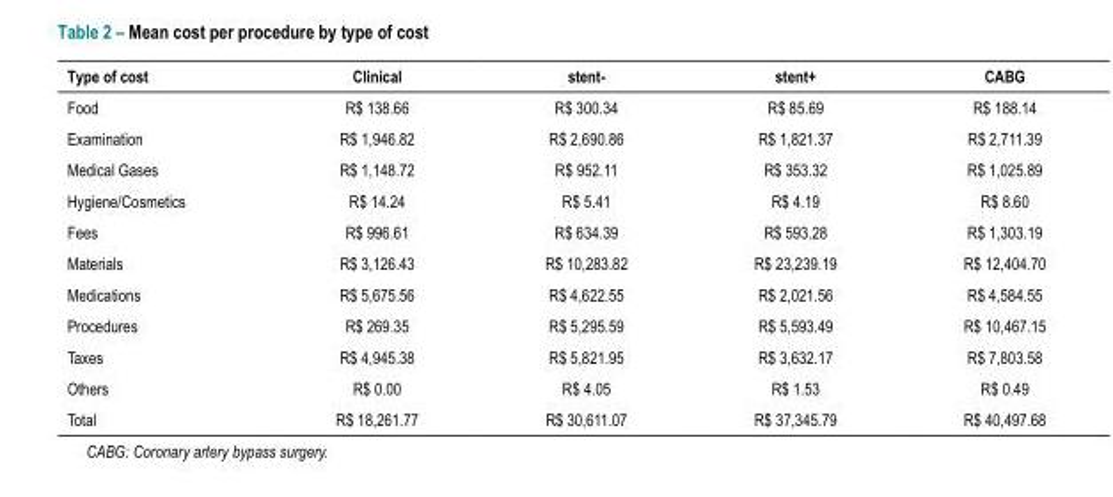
<table><thead><tr><td>Type of cost</td><td>Clinical</td><td>stent-</td><td>stent+</td><td>CABG</td></tr></thead><tbody><tr><td>Food</td><td>R$ 138.66</td><td>R$ 300.34</td><td>R$ 85.69</td><td>R$ 188.14</td></tr><tr><td>Examination</td><td>R$ 1,946.82</td><td>R$ 2,690.86</td><td>R$ 1,821.37</td><td>R$ 2,711.39</td></tr><tr><td>Medical Gases</td><td>R$ 1,148.72</td><td>R$ 952.11</td><td>R$ 353.32</td><td>R$ 1,025.89</td></tr><tr><td>Hygiene/Cosmetics</td><td>R$ 14.24</td><td>R$ 5.41</td><td>R$ 4.19</td><td>R$ 8.60</td></tr><tr><td>Fees</td><td>R$ 996.61</td><td>R$ 634.39</td><td>R$ 593.28</td><td>R$ 1,303.19</td></tr><tr><td>Materials</td><td>R$ 3,126.43</td><td>R$ 10,283.82</td><td>R$ 23,239.19</td><td>R$ 12,404.70</td></tr><tr><td>Medications</td><td>R$ 5,675.56</td><td>R$ 4,622.55</td><td>R$ 2,021.56</td><td>R$ 4,584.55</td></tr><tr><td>Procedures</td><td>R$ 269.35</td><td>R$ 5,295.59</td><td>R$ 5,593.49</td><td>R$ 10,467.15</td></tr><tr><td>Taxes</td><td>R$ 4,945.38</td><td>R$ 5,821.95</td><td>R$ 3,632.17</td><td>R$ 7,803.58</td></tr><tr><td>Others</td><td>R$ 0.00</td><td>R$ 4.05</td><td>R$ 1.53</td><td>R$ 0.49</td></tr><tr><td>Total</td><td>R$ 18,261.77</td><td>R$ 30,611.07</td><td>R$ 37,345.79</td><td>R$ 40,497.68</td></tr></tbody></table>